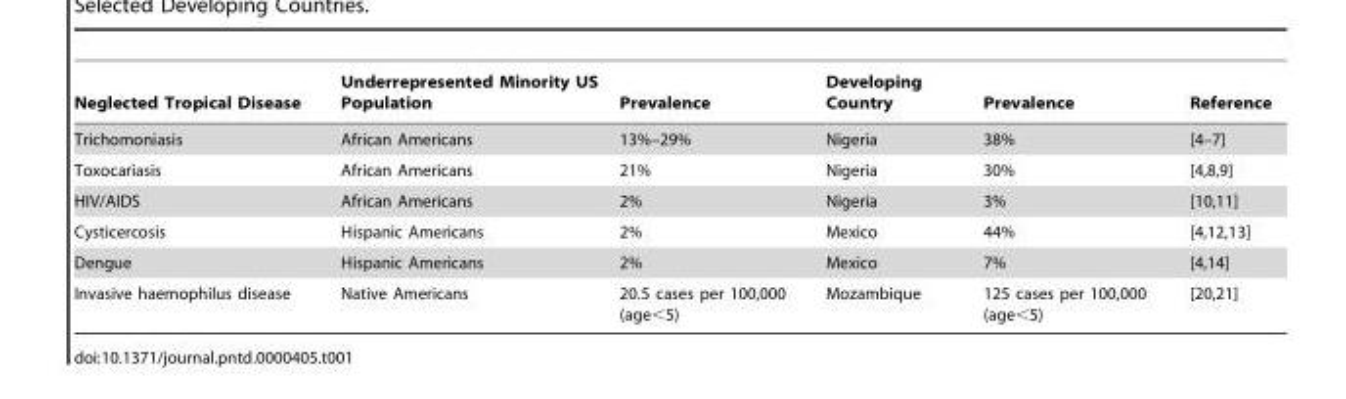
<table><thead><tr><td>Neglected Tropical Disease</td><td>Underrepresented Minority US Population</td><td>Prevalence</td><td>Developing Country</td><td>Prevalence</td><td>Reference</td></tr></thead><tbody><tr><td>Trichomoniasis</td><td>African Americans</td><td>13%–29%</td><td>Nigeria</td><td>38%</td><td>[4–7]</td></tr><tr><td>Toxocariasis</td><td>African Americans</td><td>21%</td><td>Nigeria</td><td>30%</td><td>[4,8,9]</td></tr><tr><td>HIV/AIDS</td><td>African Americans</td><td>2%</td><td>Nigeria</td><td>3%</td><td>[10,11]</td></tr><tr><td>Cysticercosis</td><td>Hispanic Americans</td><td>2%</td><td>Mexico</td><td>44%</td><td>[4,12,13]</td></tr><tr><td>Dengue</td><td>Hispanic Americans</td><td>2%</td><td>Mexico</td><td>7%</td><td>[4,14]</td></tr><tr><td>Invasive haemophilus disease</td><td>Native Americans</td><td>20.5 cases per 100,000 (age&lt;5)</td><td>Mozambique</td><td>125 cases per 100,000 (age&lt;5)</td><td>[20,21]</td></tr></tbody></table>